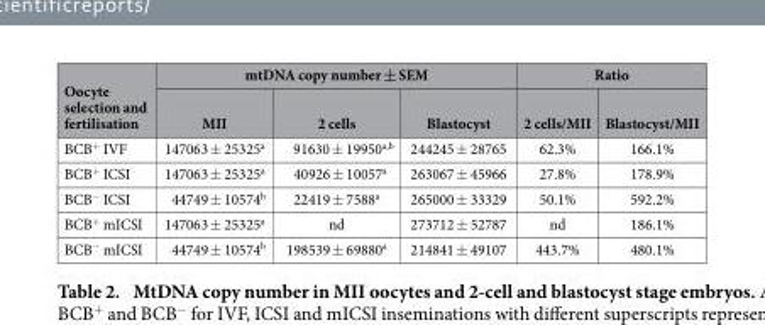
<table><thead><tr><td rowspan="2">Oocyte selection and fertilisation</td><td colspan="3">mtDNA copy number ± SEM</td><td colspan="2">Ratio</td></tr><tr><td>MII</td><td>2 cells</td><td>Blastocyst</td><td>2 cells/MII</td><td>Blastocyst/MII</td></tr></thead><tbody><tr><td>BCB<sup>+</sup> IVF</td><td>147063 ± 25325<sup>a</sup></td><td>91630 ± 19950<sup>a,b</sup></td><td>244245 ± 28765</td><td>62.3%</td><td>166.1%</td></tr><tr><td>BCB<sup>+</sup> ICSI</td><td>147063 ± 25325<sup>a</sup></td><td>40926 ± 10057<sup>a</sup></td><td>263067 ± 45966</td><td>27.8%</td><td>178.9%</td></tr><tr><td>BCB<sup>−</sup> ICSI</td><td>44749 ± 10574<sup>b</sup></td><td>22419 ± 7588<sup>a</sup></td><td>265000 ± 33329</td><td>50.1%</td><td>592.2%</td></tr><tr><td>BCB<sup>+</sup> mICSI</td><td>147063 ± 25325<sup>a</sup></td><td>nd</td><td>273712 ± 52787</td><td>nd</td><td>186.1%</td></tr><tr><td>BCB<sup>−</sup> mICSI</td><td>44749 ± 10574<sup>b</sup></td><td>198539 ± 69880<sup>a</sup></td><td>214841 ± 49107</td><td>443.7%</td><td>480.1%</td></tr></tbody></table>